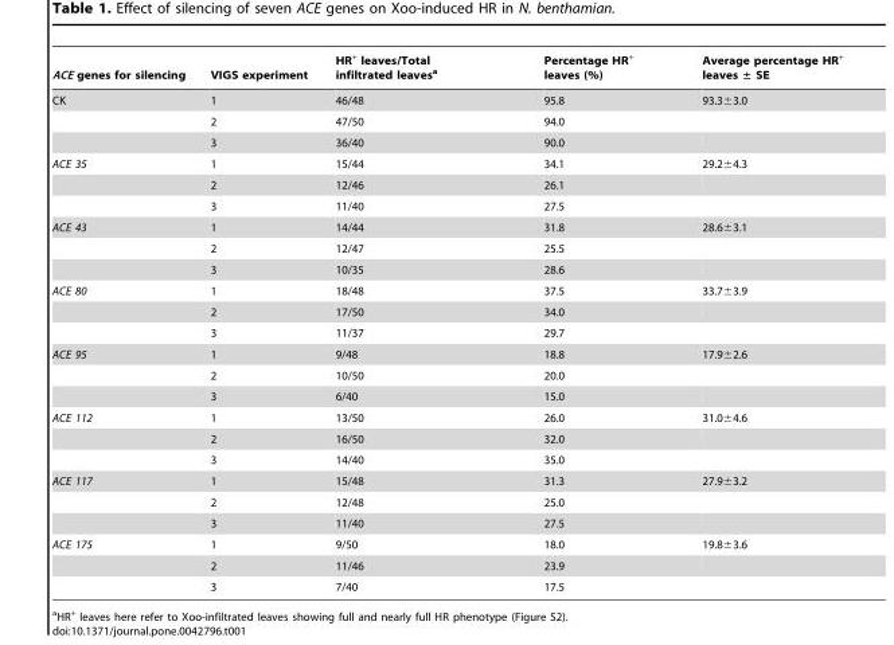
<table><thead><tr><td>ACE genes for silencing</td><td>VIGS experiment</td><td>HR<sup>+</sup> leaves/Total infiltrated leaves<sup>a</sup></td><td>Percentage HR<sup>+</sup> leaves (%)</td><td>Average percentage HR<sup>+</sup> leaves ± SE</td></tr></thead><tbody><tr><td rowspan="3">CK</td><td>1</td><td>46/48</td><td>95.8</td><td>93.3±3.0</td></tr><tr><td>2</td><td>47/50</td><td>94.0</td><td></td></tr><tr><td>3</td><td>36/40</td><td>90.0</td><td></td></tr><tr><td rowspan="3">ACE 35</td><td>1</td><td>15/44</td><td>34.1</td><td>29.2±4.3</td></tr><tr><td>2</td><td>12/46</td><td>26.1</td><td></td></tr><tr><td>3</td><td>11/40</td><td>27.5</td><td></td></tr><tr><td rowspan="3">ACE 43</td><td>1</td><td>14/44</td><td>31.8</td><td>28.6±3.1</td></tr><tr><td>2</td><td>12/47</td><td>25.5</td><td></td></tr><tr><td>3</td><td>10/35</td><td>28.6</td><td></td></tr><tr><td rowspan="3">ACE 80</td><td>1</td><td>18/48</td><td>37.5</td><td>33.7±3.9</td></tr><tr><td>2</td><td>17/50</td><td>34.0</td><td></td></tr><tr><td>3</td><td>11/37</td><td>29.7</td><td></td></tr><tr><td rowspan="3">ACE 95</td><td>1</td><td>9/48</td><td>18.8</td><td>17.9±2.6</td></tr><tr><td>2</td><td>10/50</td><td>20.0</td><td></td></tr><tr><td>3</td><td>6/40</td><td>15.0</td><td></td></tr><tr><td rowspan="3">ACE 112</td><td>1</td><td>13/50</td><td>26.0</td><td>31.0±4.6</td></tr><tr><td>2</td><td>16/50</td><td>32.0</td><td></td></tr><tr><td>3</td><td>14/40</td><td>35.0</td><td></td></tr><tr><td rowspan="3">ACE 117</td><td>1</td><td>15/48</td><td>31.3</td><td>27.9±3.2</td></tr><tr><td>2</td><td>12/48</td><td>25.0</td><td></td></tr><tr><td>3</td><td>11/40</td><td>27.5</td><td></td></tr><tr><td rowspan="3">ACE 175</td><td>1</td><td>9/50</td><td>18.0</td><td>19.8±3.6</td></tr><tr><td>2</td><td>11/46</td><td>23.9</td><td></td></tr><tr><td>3</td><td>7/40</td><td>17.5</td><td></td></tr></tbody></table>